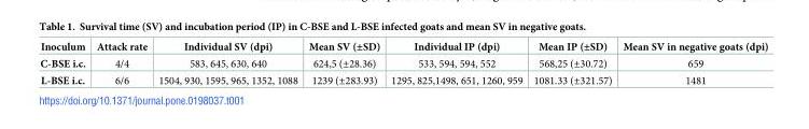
<table><thead><tr><td>Inoculum</td><td>Attack rate</td><td>Individual SV (dpi)</td><td>Mean SV (±SD)</td><td>Individual IP (dpi)</td><td>Mean IP (±SD)</td><td>Mean SV in negative goats (dpi)</td></tr></thead><tbody><tr><td>C-BSE i.c.</td><td>4/4</td><td>583, 645, 630, 640</td><td>624,5 (±28.36)</td><td>533, 594, 594, 552</td><td>568,25 (±30.72)</td><td>659</td></tr><tr><td>L-BSE i.c.</td><td>6/6</td><td>1504, 930, 1595, 965, 1352, 1088</td><td>1239 (±283.93)</td><td>1295, 825,1498, 651, 1260, 959</td><td>1081.33 (±321.57)</td><td>1481</td></tr></tbody></table>